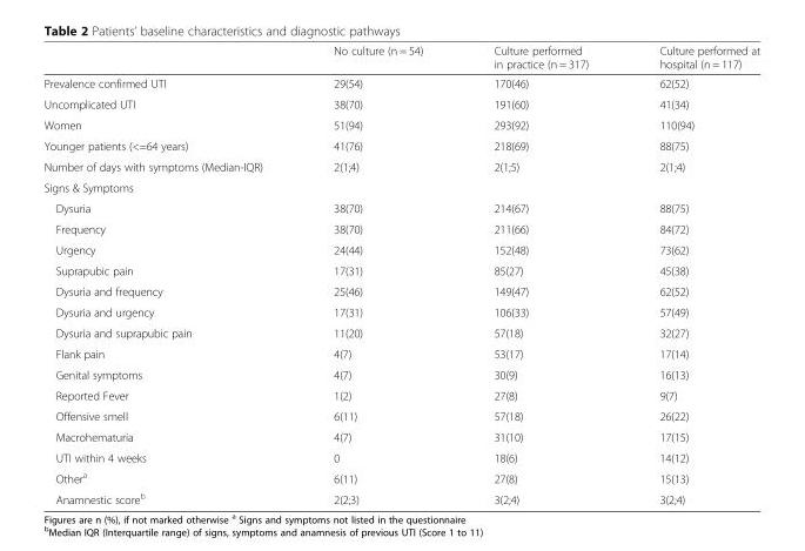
<table><thead><tr><td></td><td>No culture (n = 54)</td><td>Culture performed in practice (n = 317)</td><td>Culture performed at hospital (n = 117)</td></tr></thead><tbody><tr><td>Prevalence confirmed UTI</td><td>29(54)</td><td>170(46)</td><td>62(52)</td></tr><tr><td>Uncomplicated UTI</td><td>38(70)</td><td>191(60)</td><td>41(34)</td></tr><tr><td>Women</td><td>51(94)</td><td>293(92)</td><td>110(94)</td></tr><tr><td>Younger patients (&lt;=64 years)</td><td>41(76)</td><td>218(69)</td><td>88(75)</td></tr><tr><td>Number of days with symptoms (Median-IQR)</td><td>2(1;4)</td><td>2(1;5)</td><td>2(1;4)</td></tr><tr><td colspan="4">Signs &amp; Symptoms</td></tr><tr><td>Dysuria</td><td>38(70)</td><td>214(67)</td><td>88(75)</td></tr><tr><td>Frequency</td><td>38(70)</td><td>211(66)</td><td>84(72)</td></tr><tr><td>Urgency</td><td>24(44)</td><td>152(48)</td><td>73(62)</td></tr><tr><td>Suprapubic pain</td><td>17(31)</td><td>85(27)</td><td>45(38)</td></tr><tr><td>Dysuria and frequency</td><td>25(46)</td><td>149(47)</td><td>62(52)</td></tr><tr><td>Dysuria and urgency</td><td>17(31)</td><td>106(33)</td><td>57(49)</td></tr><tr><td>Dysuria and suprapubic pain</td><td>11(20)</td><td>57(18)</td><td>32(27)</td></tr><tr><td>Flank pain</td><td>4(7)</td><td>53(17)</td><td>17(14)</td></tr><tr><td>Genital symptoms</td><td>4(7)</td><td>30(9)</td><td>16(13)</td></tr><tr><td>Reported Fever</td><td>1(2)</td><td>27(8)</td><td>9(7)</td></tr><tr><td>Offensive smell</td><td>6(11)</td><td>57(18)</td><td>26(22)</td></tr><tr><td>Macrohematuria</td><td>4(7)</td><td>31(10)</td><td>17(15)</td></tr><tr><td>UTI within 4 weeks</td><td>0</td><td>18(6)</td><td>14(12)</td></tr><tr><td>Other<sup>a</sup></td><td>6(11)</td><td>27(8)</td><td>15(13)</td></tr><tr><td>Anamnestic score<sup>b</sup></td><td>2(2;3)</td><td>3(2;4)</td><td>3(2;4)</td></tr></tbody></table>